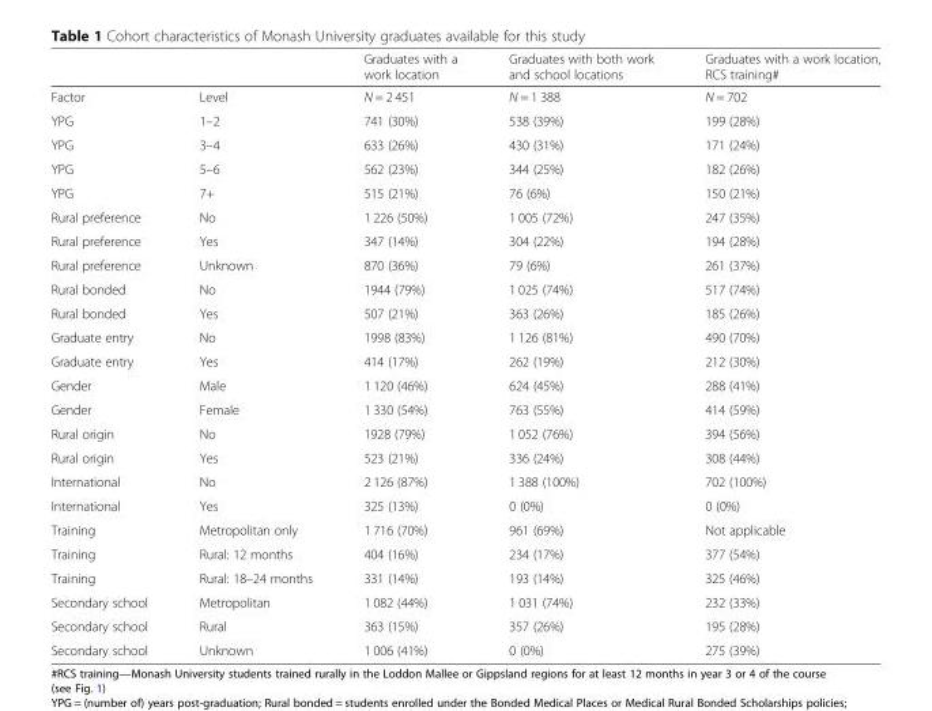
<table><thead><tr><td></td><td></td><td>Graduates with a work location</td><td>Graduates with both work and school locations</td><td>Graduates with a work location, RCS training#</td></tr></thead><tbody><tr><td>Factor</td><td>Level</td><td>N = 2 451</td><td>N = 1 388</td><td>N = 702</td></tr><tr><td>YPG</td><td>1–2</td><td>741 (30%)</td><td>538 (39%)</td><td>199 (28%)</td></tr><tr><td>YPG</td><td>3–4</td><td>633 (26%)</td><td>430 (31%)</td><td>171 (24%)</td></tr><tr><td>YPG</td><td>5–6</td><td>562 (23%)</td><td>344 (25%)</td><td>182 (26%)</td></tr><tr><td>YPG</td><td>7+</td><td>515 (21%)</td><td>76 (6%)</td><td>150 (21%)</td></tr><tr><td>Rural preference</td><td>No</td><td>1 226 (50%)</td><td>1 005 (72%)</td><td>247 (35%)</td></tr><tr><td>Rural preference</td><td>Yes</td><td>347 (14%)</td><td>304 (22%)</td><td>194 (28%)</td></tr><tr><td>Rural preference</td><td>Unknown</td><td>870 (36%)</td><td>79 (6%)</td><td>261 (37%)</td></tr><tr><td>Rural bonded</td><td>No</td><td>1944 (79%)</td><td>1 025 (74%)</td><td>517 (74%)</td></tr><tr><td>Rural bonded</td><td>Yes</td><td>507 (21%)</td><td>363 (26%)</td><td>185 (26%)</td></tr><tr><td>Graduate entry</td><td>No</td><td>1998 (83%)</td><td>1 126 (81%)</td><td>490 (70%)</td></tr><tr><td>Graduate entry</td><td>Yes</td><td>414 (17%)</td><td>262 (19%)</td><td>212 (30%)</td></tr><tr><td>Gender</td><td>Male</td><td>1 120 (46%)</td><td>624 (45%)</td><td>288 (41%)</td></tr><tr><td>Gender</td><td>Female</td><td>1 330 (54%)</td><td>763 (55%)</td><td>414 (59%)</td></tr><tr><td>Rural origin</td><td>No</td><td>1928 (79%)</td><td>1 052 (76%)</td><td>394 (56%)</td></tr><tr><td>Rural origin</td><td>Yes</td><td>523 (21%)</td><td>336 (24%)</td><td>308 (44%)</td></tr><tr><td>International</td><td>No</td><td>2 126 (87%)</td><td>1 388 (100%)</td><td>702 (100%)</td></tr><tr><td>International</td><td>Yes</td><td>325 (13%)</td><td>0 (0%)</td><td>0 (0%)</td></tr><tr><td>Training</td><td>Metropolitan only</td><td>1 716 (70%)</td><td>961 (69%)</td><td>Not applicable</td></tr><tr><td>Training</td><td>Rural: 12 months</td><td>404 (16%)</td><td>234 (17%)</td><td>377 (54%)</td></tr><tr><td>Training</td><td>Rural: 18–24 months</td><td>331 (14%)</td><td>193 (14%)</td><td>325 (46%)</td></tr><tr><td>Secondary school</td><td>Metropolitan</td><td>1 082 (44%)</td><td>1 031 (74%)</td><td>232 (33%)</td></tr><tr><td>Secondary school</td><td>Rural</td><td>363 (15%)</td><td>357 (26%)</td><td>195 (28%)</td></tr><tr><td>Secondary school</td><td>Unknown</td><td>1 006 (41%)</td><td>0 (0%)</td><td>275 (39%)</td></tr></tbody></table>